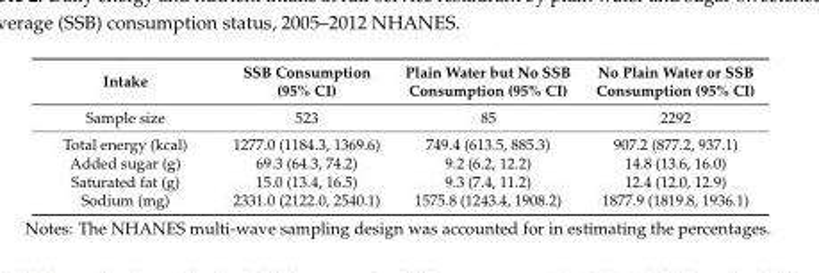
<table><thead><tr><td>Intake</td><td>SSB Consumption (95% CI)</td><td>Plain Water but No SSB Consumption (95% CI)</td><td>No Plain Water or SSB Consumption (95% CI)</td></tr></thead><tbody><tr><td>Sample size</td><td>523</td><td>85</td><td>2292</td></tr><tr><td>Total energy (kcal)</td><td>1277.0 (1184.3, 1369.6)</td><td>749.4 (613.5, 885.3)</td><td>907.2 (877.2, 937.1)</td></tr><tr><td>Added sugar (g)</td><td>69.3 (64.3, 74.2)</td><td>9.2 (6.2, 12.2)</td><td>14.8 (13.6, 16.0)</td></tr><tr><td>Saturated fat (g)</td><td>15.0 (13.4, 16.5)</td><td>9.3 (7.4, 11.2)</td><td>12.4 (12.0, 12.9)</td></tr><tr><td>Sodium (mg)</td><td>2331.0 (2122.0, 2540.1)</td><td>1575.8 (1243.4, 1908.2)</td><td>1877.9 (1819.8, 1936.1)</td></tr></tbody></table>